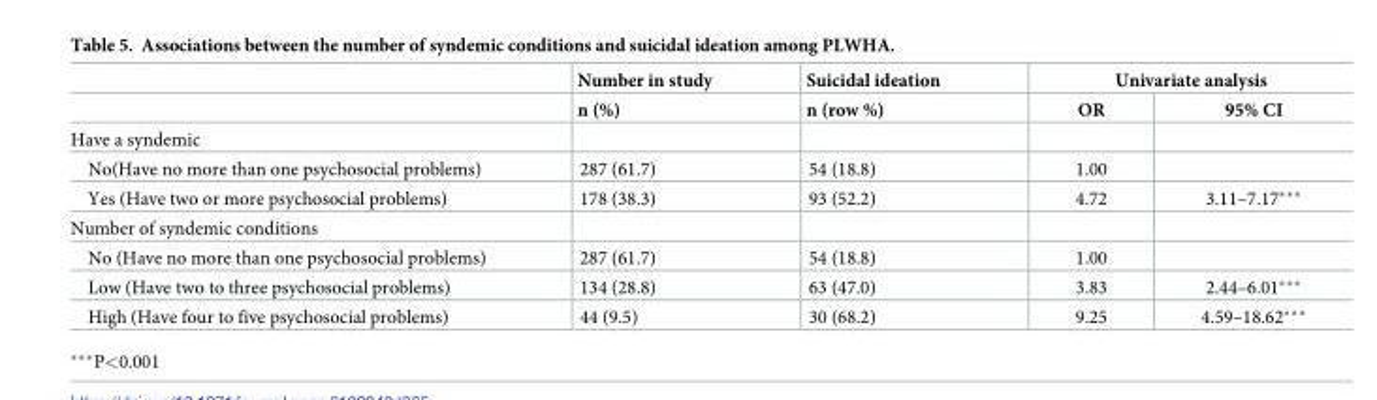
<table><thead><tr><td rowspan="2"></td><td rowspan="2">Number in study n (%)</td><td rowspan="2">Suicidal ideation n (row %)</td><td colspan="2">Univariate analysis</td></tr><tr><td>OR</td><td>95% CI</td></tr></thead><tbody><tr><td colspan="5">Have a syndemic</td></tr><tr><td>No(Have no more than one psychosocial problems)</td><td>287 (61.7)</td><td>54 (18.8)</td><td>1.00</td><td></td></tr><tr><td>Yes (Have two or more psychosocial problems)</td><td>178 (38.3)</td><td>93 (52.2)</td><td>4.72</td><td>3.11–7.17***</td></tr><tr><td colspan="5">Number of syndemic conditions</td></tr><tr><td>No (Have no more than one psychosocial problems)</td><td>287 (61.7)</td><td>54 (18.8)</td><td>1.00</td><td></td></tr><tr><td>Low (Have two to three psychosocial problems)</td><td>134 (28.8)</td><td>63 (47.0)</td><td>3.83</td><td>2.44–6.01***</td></tr><tr><td>High (Have four to five psychosocial problems)</td><td>44 (9.5)</td><td>30 (68.2)</td><td>9.25</td><td>4.59–18.62***</td></tr></tbody></table>